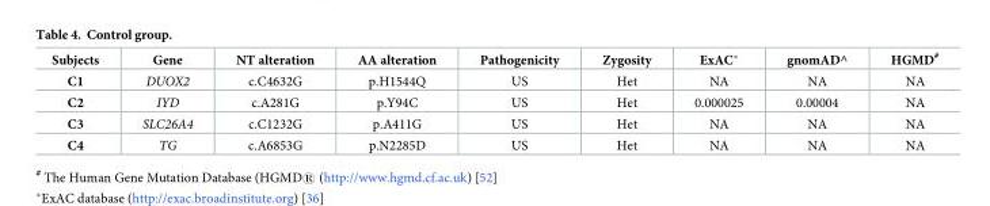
<table><thead><tr><td>Subjects</td><td>Gene</td><td>NT alteration</td><td>AA alteration</td><td>Pathogenicity</td><td>Zygosity</td><td>ExAC*</td><td>gnomAD^</td><td>HGMD<sup>#</sup></td></tr></thead><tbody><tr><td>C1</td><td>DUOX2</td><td>c.C4632G</td><td>p.H1544Q</td><td>US</td><td>Het</td><td>NA</td><td>NA</td><td>NA</td></tr><tr><td>C2</td><td>IYD</td><td>c.A281G</td><td>p.Y94C</td><td>US</td><td>Het</td><td>0.000025</td><td>0.00004</td><td>NA</td></tr><tr><td>C3</td><td>SLC26A4</td><td>c.C1232G</td><td>p.A411G</td><td>US</td><td>Het</td><td>NA</td><td>NA</td><td>NA</td></tr><tr><td>C4</td><td>TG</td><td>c.A6853G</td><td>p.N2285D</td><td>US</td><td>Het</td><td>NA</td><td>NA</td><td>NA</td></tr></tbody></table>